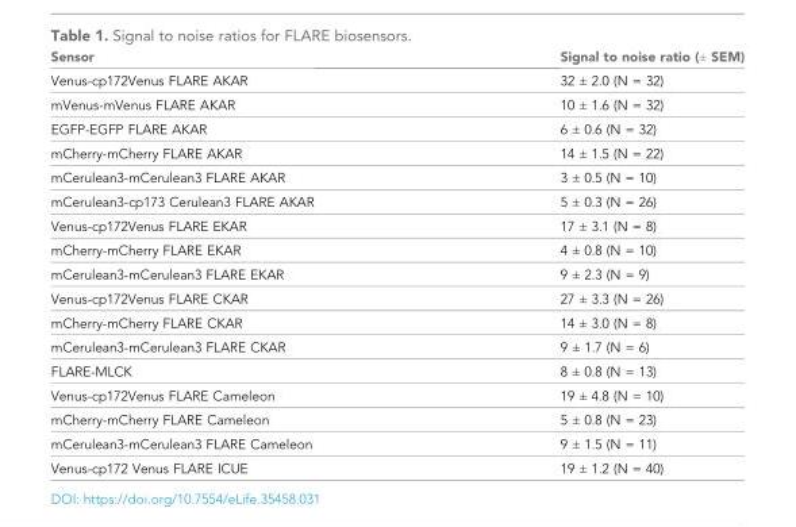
<table><thead><tr><td>Sensor</td><td>Signal to noise ratio (± SEM)</td></tr></thead><tbody><tr><td>Venus-cp172Venus FLARE AKAR</td><td>32 ± 2.0 (N = 32)</td></tr><tr><td>mVenus-mVenus FLARE AKAR</td><td>10 ± 1.6 (N = 32)</td></tr><tr><td>EGFP-EGFP FLARE AKAR</td><td>6 ± 0.6 (N = 32)</td></tr><tr><td>mCherry-mCherry FLARE AKAR</td><td>14 ± 1.5 (N = 22)</td></tr><tr><td>mCerulean3-mCerulean3 FLARE AKAR</td><td>3 ± 0.5 (N = 10)</td></tr><tr><td>mCerulean3-cp173 Cerulean3 FLARE AKAR</td><td>5 ± 0.3 (N = 26)</td></tr><tr><td>Venus-cp172Venus FLARE EKAR</td><td>17 ± 3.1 (N = 8)</td></tr><tr><td>mCherry-mCherry FLARE EKAR</td><td>4 ± 0.8 (N = 10)</td></tr><tr><td>mCerulean3-mCerulean3 FLARE EKAR</td><td>9 ± 2.3 (N = 9)</td></tr><tr><td>Venus-cp172Venus FLARE CKAR</td><td>27 ± 3.3 (N = 26)</td></tr><tr><td>mCherry-mCherry FLARE CKAR</td><td>14 ± 3.0 (N = 8)</td></tr><tr><td>mCerulean3-mCerulean3 FLARE CKAR</td><td>9 ± 1.7 (N = 6)</td></tr><tr><td>FLARE-MLCK</td><td>8 ± 0.8 (N = 13)</td></tr><tr><td>Venus-cp172Venus FLARE Cameleon</td><td>19 ± 4.8 (N = 10)</td></tr><tr><td>mCherry-mCherry FLARE Cameleon</td><td>5 ± 0.8 (N = 23)</td></tr><tr><td>mCerulean3-mCerulean3 FLARE Cameleon</td><td>9 ± 1.5 (N = 11)</td></tr><tr><td>Venus-cp172 Venus FLARE ICUE</td><td>19 ± 1.2 (N = 40)</td></tr></tbody></table>